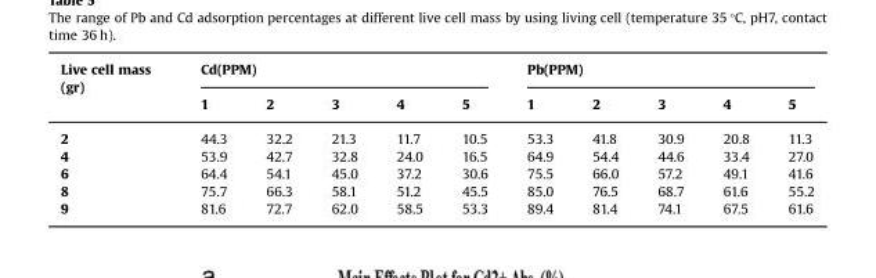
<table><thead><tr><td rowspan="2">Live cell mass (gr)</td><td colspan="5">Cd(PPM)</td><td colspan="5">Pb(PPM)</td></tr><tr><td>1</td><td>2</td><td>3</td><td>4</td><td>5</td><td>1</td><td>2</td><td>3</td><td>4</td><td>5</td></tr></thead><tbody><tr><td>2</td><td>44.3</td><td>32.2</td><td>21.3</td><td>11.7</td><td>10.5</td><td>53.3</td><td>41.8</td><td>30.9</td><td>20.8</td><td>11.3</td></tr><tr><td>4</td><td>53.9</td><td>42.7</td><td>32.8</td><td>24.0</td><td>16.5</td><td>64.9</td><td>54.4</td><td>44.6</td><td>33.4</td><td>27.0</td></tr><tr><td>6</td><td>64.4</td><td>54.1</td><td>45.0</td><td>37.2</td><td>30.6</td><td>75.5</td><td>66.0</td><td>57.2</td><td>49.1</td><td>41.6</td></tr><tr><td>8</td><td>75.7</td><td>66.3</td><td>58.1</td><td>51.2</td><td>45.5</td><td>85.0</td><td>76.5</td><td>68.7</td><td>61.6</td><td>55.2</td></tr><tr><td>9</td><td>81.6</td><td>72.7</td><td>62.0</td><td>58.5</td><td>53.3</td><td>89.4</td><td>81.4</td><td>74.1</td><td>67.5</td><td>61.6</td></tr></tbody></table>